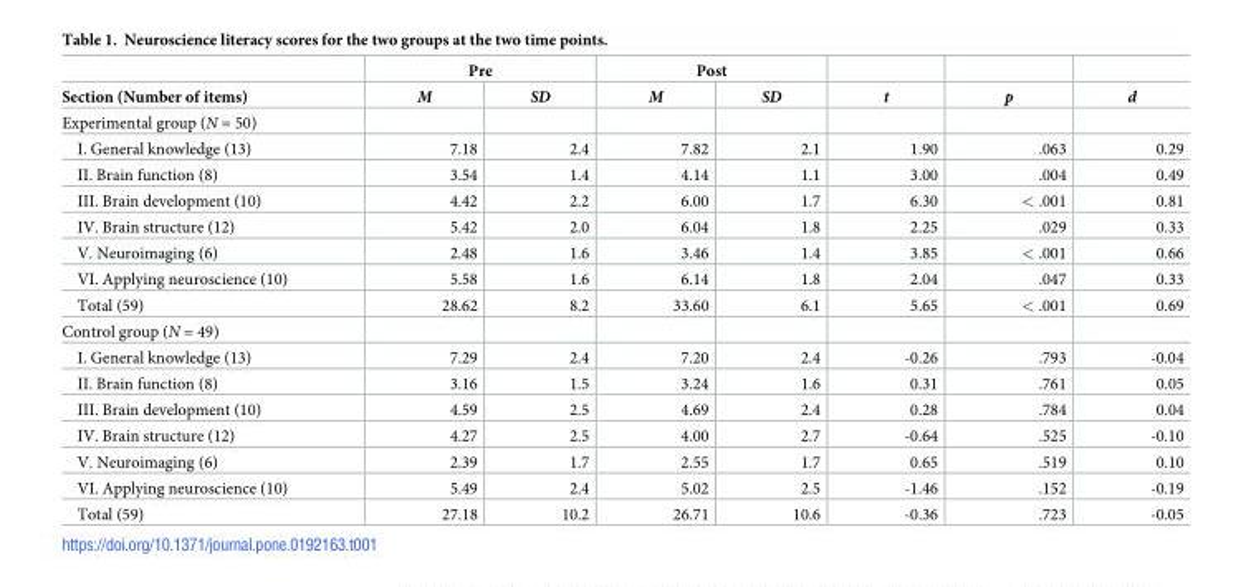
<table><thead><tr><td rowspan="2">Section (Number of items)</td><td colspan="2">Pre</td><td colspan="2">Post</td><td rowspan="2">t</td><td rowspan="2">p</td><td rowspan="2">d</td></tr><tr><td>M</td><td>SD</td><td>M</td><td>SD</td></tr></thead><tbody><tr><td colspan="8">Experimental group (N = 50)</td></tr><tr><td>I. General knowledge (13)</td><td>7.18</td><td>2.4</td><td>7.82</td><td>2.1</td><td>1.90</td><td>.063</td><td>0.29</td></tr><tr><td>II. Brain function (8)</td><td>3.54</td><td>1.4</td><td>4.14</td><td>1.1</td><td>3.00</td><td>.004</td><td>0.49</td></tr><tr><td>III. Brain development (10)</td><td>4.42</td><td>2.2</td><td>6.00</td><td>1.7</td><td>6.30</td><td>&lt; .001</td><td>0.81</td></tr><tr><td>IV. Brain structure (12)</td><td>5.42</td><td>2.0</td><td>6.04</td><td>1.8</td><td>2.25</td><td>.029</td><td>0.33</td></tr><tr><td>V. Neuroimaging (6)</td><td>2.48</td><td>1.6</td><td>3.46</td><td>1.4</td><td>3.85</td><td>&lt; .001</td><td>0.66</td></tr><tr><td>VI. Applying neuroscience (10)</td><td>5.58</td><td>1.6</td><td>6.14</td><td>1.8</td><td>2.04</td><td>.047</td><td>0.33</td></tr><tr><td>Total (59)</td><td>28.62</td><td>8.2</td><td>33.60</td><td>6.1</td><td>5.65</td><td>&lt; .001</td><td>0.69</td></tr><tr><td colspan="8">Control group (N = 49)</td></tr><tr><td>I. General knowledge (13)</td><td>7.29</td><td>2.4</td><td>7.20</td><td>2.4</td><td>-0.26</td><td>.793</td><td>-0.04</td></tr><tr><td>II. Brain function (8)</td><td>3.16</td><td>1.5</td><td>3.24</td><td>1.6</td><td>0.31</td><td>.761</td><td>0.05</td></tr><tr><td>III. Brain development (10)</td><td>4.59</td><td>2.5</td><td>4.69</td><td>2.4</td><td>0.28</td><td>.784</td><td>0.04</td></tr><tr><td>IV. Brain structure (12)</td><td>4.27</td><td>2.5</td><td>4.00</td><td>2.7</td><td>-0.64</td><td>.525</td><td>-0.10</td></tr><tr><td>V. Neuroimaging (6)</td><td>2.39</td><td>1.7</td><td>2.55</td><td>1.7</td><td>0.65</td><td>.519</td><td>0.10</td></tr><tr><td>VI. Applying neuroscience (10)</td><td>5.49</td><td>2.4</td><td>5.02</td><td>2.5</td><td>-1.46</td><td>.152</td><td>-0.19</td></tr><tr><td>Total (59)</td><td>27.18</td><td>10.2</td><td>26.71</td><td>10.6</td><td>-0.36</td><td>.723</td><td>-0.05</td></tr></tbody></table>